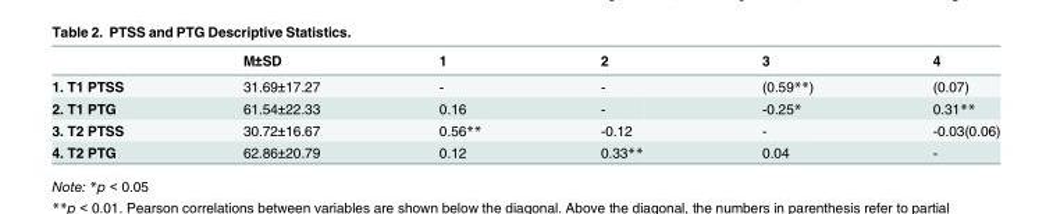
<table><thead><tr><td></td><td>M±SD</td><td>1</td><td>2</td><td>3</td><td>4</td></tr></thead><tbody><tr><td>1. T1 PTSS</td><td>31.69±17.27</td><td>-</td><td>-</td><td>(0.59**)</td><td>(0.07)</td></tr><tr><td>2. T1 PTG</td><td>61.54±22.33</td><td>0.16</td><td>-</td><td>-0.25*</td><td>0.31**</td></tr><tr><td>3. T2 PTSS</td><td>30.72±16.67</td><td>0.56**</td><td>-0.12</td><td>-</td><td>-0.03(0.06)</td></tr><tr><td>4. T2 PTG</td><td>62.86±20.79</td><td>0.12</td><td>0.33**</td><td>0.04</td><td>-</td></tr></tbody></table>